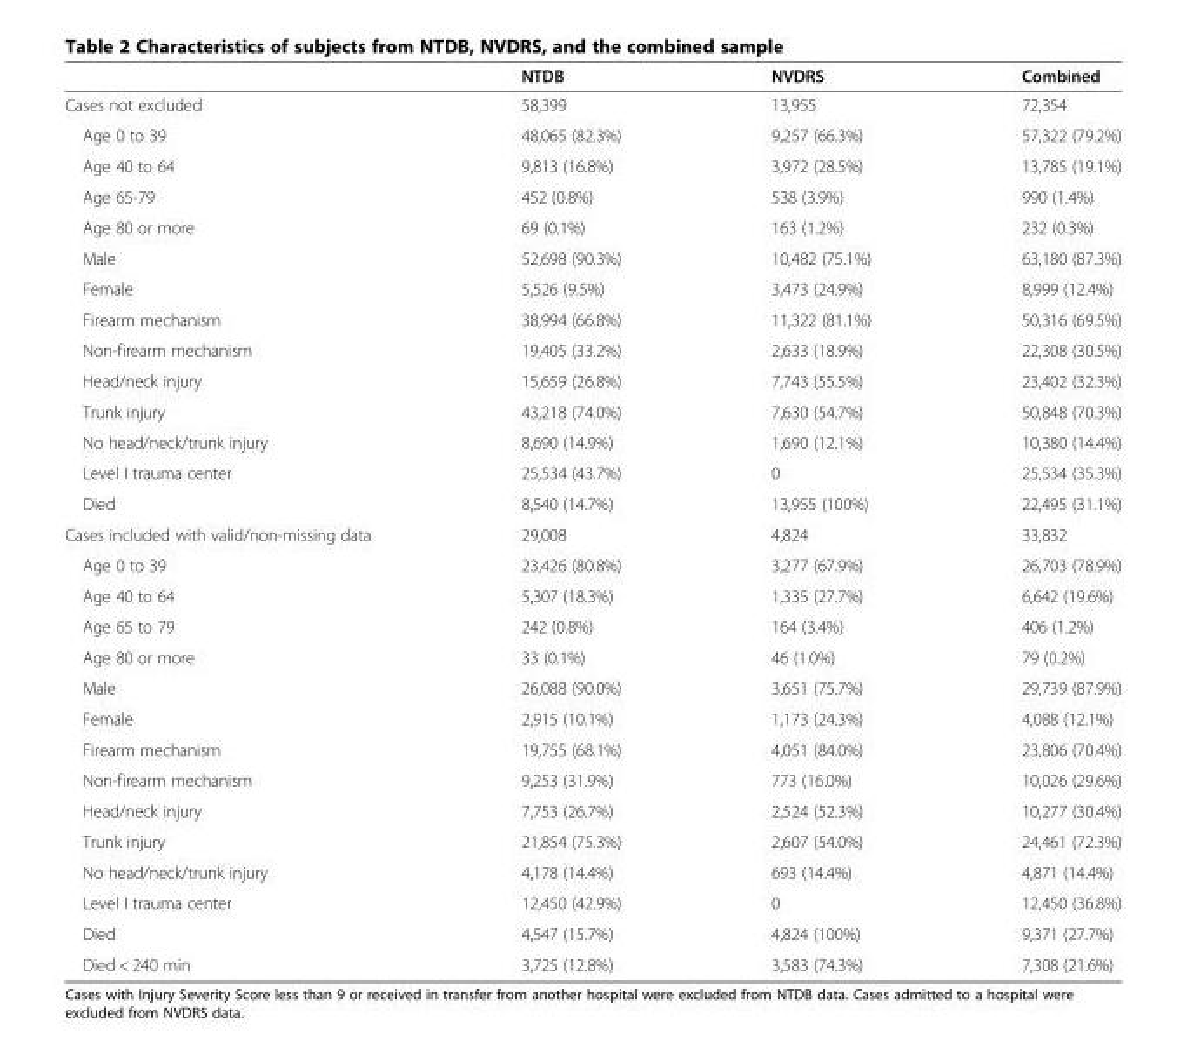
<table><thead><tr><td></td><td>NTDB</td><td>NVDRS</td><td>Combined</td></tr></thead><tbody><tr><td>Cases not excluded</td><td>58,399</td><td>13,955</td><td>72,354</td></tr><tr><td>Age 0 to 39</td><td>48,065 (82.3%)</td><td>9,257 (66.3%)</td><td>57,322 (79.2%)</td></tr><tr><td>Age 40 to 64</td><td>9,813 (16.8%)</td><td>3,972 (28.5%)</td><td>13,785 (19.1%)</td></tr><tr><td>Age 65-79</td><td>452 (0.8%)</td><td>538 (3.9%)</td><td>990 (1.4%)</td></tr><tr><td>Age 80 or more</td><td>69 (0.1%)</td><td>163 (1.2%)</td><td>232 (0.3%)</td></tr><tr><td>Male</td><td>52,698 (90.3%)</td><td>10,482 (75.1%)</td><td>63,180 (87.3%)</td></tr><tr><td>Female</td><td>5,526 (9.5%)</td><td>3,473 (24.9%)</td><td>8,999 (12.4%)</td></tr><tr><td>Firearm mechanism</td><td>38,994 (66.8%)</td><td>11,322 (81.1%)</td><td>50,316 (69.5%)</td></tr><tr><td>Non-firearm mechanism</td><td>19,405 (33.2%)</td><td>2,633 (18.9%)</td><td>22,308 (30.5%)</td></tr><tr><td>Head/neck injury</td><td>15,659 (26.8%)</td><td>7,743 (55.5%)</td><td>23,402 (32.3%)</td></tr><tr><td>Trunk injury</td><td>43,218 (74.0%)</td><td>7,630 (54.7%)</td><td>50,848 (70.3%)</td></tr><tr><td>No head/neck/trunk injury</td><td>8,690 (14.9%)</td><td>1,690 (12.1%)</td><td>10,380 (14.4%)</td></tr><tr><td>Level I trauma center</td><td>25,534 (43.7%)</td><td>0</td><td>25,534 (35.3%)</td></tr><tr><td>Died</td><td>8,540 (14.7%)</td><td>13,955 (100%)</td><td>22,495 (31.1%)</td></tr><tr><td>Cases included with valid/non-missing data</td><td>29,008</td><td>4,824</td><td>33,832</td></tr><tr><td>Age 0 to 39</td><td>23,426 (80.8%)</td><td>3,277 (67.9%)</td><td>26,703 (78.9%)</td></tr><tr><td>Age 40 to 64</td><td>5,307 (18.3%)</td><td>1,335 (27.7%)</td><td>6,642 (19.6%)</td></tr><tr><td>Age 65 to 79</td><td>242 (0.8%)</td><td>164 (3.4%)</td><td>406 (1.2%)</td></tr><tr><td>Age 80 or more</td><td>33 (0.1%)</td><td>46 (1.0%)</td><td>79 (0.2%)</td></tr><tr><td>Male</td><td>26,088 (90.0%)</td><td>3,651 (75.7%)</td><td>29,739 (87.9%)</td></tr><tr><td>Female</td><td>2,915 (10.1%)</td><td>1,173 (24.3%)</td><td>4,088 (12.1%)</td></tr><tr><td>Firearm mechanism</td><td>19,755 (68.1%)</td><td>4,051 (84.0%)</td><td>23,806 (70.4%)</td></tr><tr><td>Non-firearm mechanism</td><td>9,253 (31.9%)</td><td>773 (16.0%)</td><td>10,026 (29.6%)</td></tr><tr><td>Head/neck injury</td><td>7,753 (26.7%)</td><td>2,524 (52.3%)</td><td>10,277 (30.4%)</td></tr><tr><td>Trunk injury</td><td>21,854 (75.3%)</td><td>2,607 (54.0%)</td><td>24,461 (72.3%)</td></tr><tr><td>No head/neck/trunk injury</td><td>4,178 (14.4%)</td><td>693 (14.4%)</td><td>4,871 (14.4%)</td></tr><tr><td>Level I trauma center</td><td>12,450 (42.9%)</td><td>0</td><td>12,450 (36.8%)</td></tr><tr><td>Died</td><td>4,547 (15.7%)</td><td>4,824 (100%)</td><td>9,371 (27.7%)</td></tr><tr><td>Died &lt; 240 min</td><td>3,725 (12.8%)</td><td>3,583 (74.3%)</td><td>7,308 (21.6%)</td></tr></tbody></table>